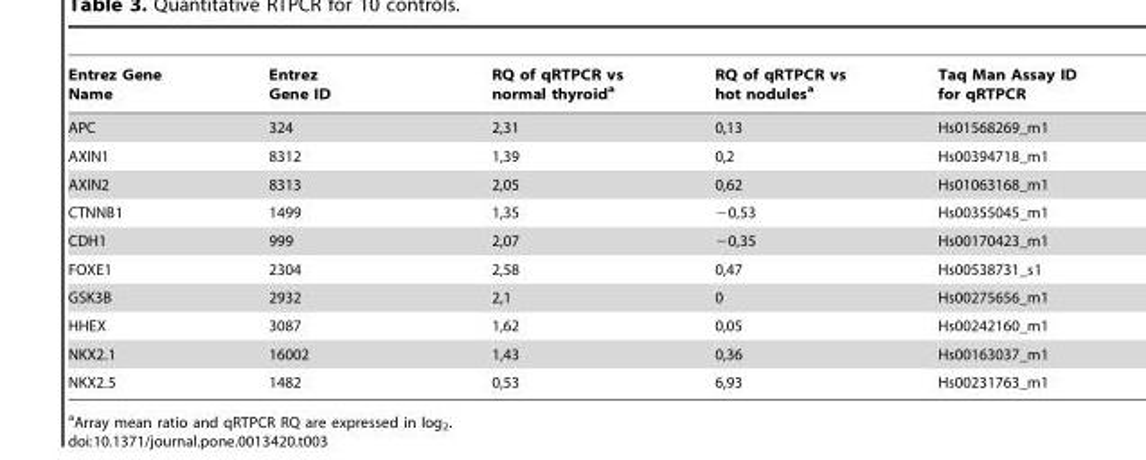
<table><thead><tr><td>Entrez Gene Name</td><td>Entrez Gene ID</td><td>RQ of qRTPCR vs normal thyroid<sup>a</sup></td><td>RQ of qRTPCR vs hot nodules<sup>a</sup></td><td>Taq Man Assay ID for qRTPCR</td></tr></thead><tbody><tr><td>APC</td><td>324</td><td>2,31</td><td>0,13</td><td>Hs01568269_m1</td></tr><tr><td>AXIN1</td><td>8312</td><td>1,39</td><td>0,2</td><td>Hs00394718_m1</td></tr><tr><td>AXIN2</td><td>8313</td><td>2,05</td><td>0,62</td><td>Hs01063168_m1</td></tr><tr><td>CTNNB1</td><td>1499</td><td>1,35</td><td>−0,53</td><td>Hs00355045_m1</td></tr><tr><td>CDH1</td><td>999</td><td>2,07</td><td>−0,35</td><td>Hs00170423_m1</td></tr><tr><td>FOXE1</td><td>2304</td><td>2,58</td><td>0,47</td><td>Hs00538731_s1</td></tr><tr><td>GSK3B</td><td>2932</td><td>2,1</td><td>0</td><td>Hs00275656_m1</td></tr><tr><td>HHEX</td><td>3087</td><td>1,62</td><td>0,05</td><td>Hs00242160_m1</td></tr><tr><td>NKX2.1</td><td>16002</td><td>1,43</td><td>0,36</td><td>Hs00163037_m1</td></tr><tr><td>NKX2.5</td><td>1482</td><td>0,53</td><td>6,93</td><td>Hs00231763_m1</td></tr></tbody></table>